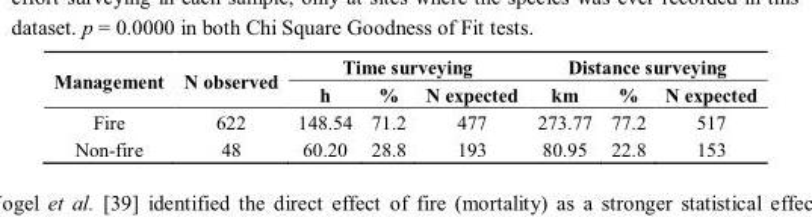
<table><thead><tr><td rowspan="2">Management</td><td rowspan="2">N observed</td><td colspan="3">Time surveying</td><td colspan="3">Distance surveying</td></tr><tr><td>h</td><td>%</td><td>N expected</td><td>km</td><td>%</td><td>N expected</td></tr></thead><tbody><tr><td>Fire</td><td>622</td><td>148.54</td><td>71.2</td><td>477</td><td>273.77</td><td>77.2</td><td>517</td></tr><tr><td>Non-fire</td><td>48</td><td>60.20</td><td>28.8</td><td>193</td><td>80.95</td><td>22.8</td><td>153</td></tr></tbody></table>